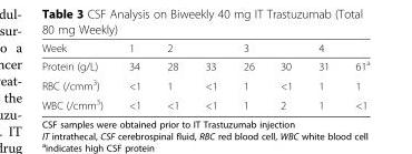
<table><thead><tr><td rowspan="2">Week Protein (g/L)</td><td rowspan="2">1 34</td><td colspan="2">2</td><td colspan="2">3</td><td colspan="2">4</td></tr><tr><td>28</td><td>33</td><td>26</td><td>30</td><td>31</td><td>61<sup>a</sup></td></tr></thead><tbody><tr><td>RBC (/cmm<sup>3</sup>)</td><td>&lt;1</td><td>1</td><td>&lt;1</td><td>1</td><td>&lt;1</td><td>1</td><td>1</td></tr><tr><td>WBC (/cmm<sup>3</sup>)</td><td>&lt;1</td><td>&lt;1</td><td>&lt;1</td><td>1</td><td>2</td><td>1</td><td>&lt;1</td></tr></tbody></table>